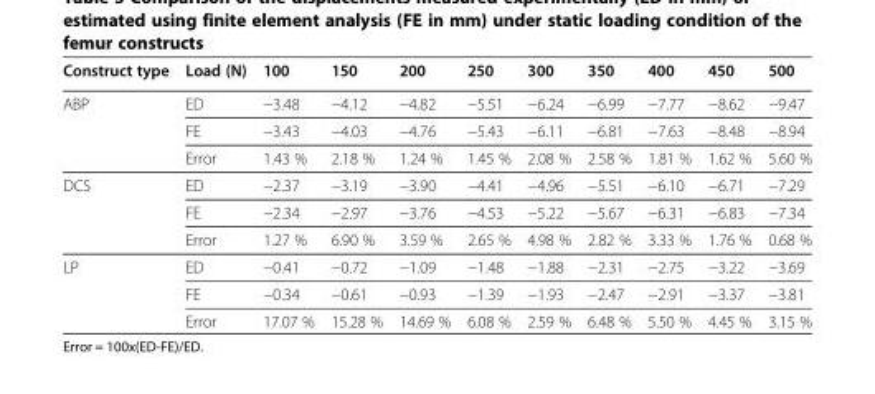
<table><thead><tr><td>Construct type</td><td>Load (N)</td><td>100</td><td>150</td><td>200</td><td>250</td><td>300</td><td>350</td><td>400</td><td>450</td><td>500</td></tr></thead><tbody><tr><td rowspan="3">ABP</td><td>ED</td><td>−3.48</td><td>−4.12</td><td>−4.82</td><td>−5.51</td><td>−6.24</td><td>−6.99</td><td>−7.77</td><td>−8.62</td><td>−9.47</td></tr><tr><td>FE</td><td>−3.43</td><td>−4.03</td><td>−4.76</td><td>−5.43</td><td>−6.11</td><td>−6.81</td><td>−7.63</td><td>−8.48</td><td>−8.94</td></tr><tr><td>Error</td><td>1.43 %</td><td>2.18 %</td><td>1.24 %</td><td>1.45 %</td><td>2.08 %</td><td>2.58 %</td><td>1.81 %</td><td>1.62 %</td><td>5.60 %</td></tr><tr><td rowspan="3">DCS</td><td>ED</td><td>−2.37</td><td>−3.19</td><td>−3.90</td><td>−4.41</td><td>−4.96</td><td>−5.51</td><td>−6.10</td><td>−6.71</td><td>−7.29</td></tr><tr><td>FE</td><td>−2.34</td><td>−2.97</td><td>−3.76</td><td>−4.53</td><td>−5.22</td><td>−5.67</td><td>−6.31</td><td>−6.83</td><td>−7.34</td></tr><tr><td>Error</td><td>1.27 %</td><td>6.90 %</td><td>3.59 %</td><td>2.65 %</td><td>4.98 %</td><td>2.82 %</td><td>3.33 %</td><td>1.76 %</td><td>0.68 %</td></tr><tr><td rowspan="3">LP</td><td>ED</td><td>−0.41</td><td>−0.72</td><td>−1.09</td><td>−1.48</td><td>−1.88</td><td>−2.31</td><td>−2.75</td><td>−3.22</td><td>−3.69</td></tr><tr><td>FE</td><td>−0.34</td><td>−0.61</td><td>−0.93</td><td>−1.39</td><td>−1.93</td><td>−2.47</td><td>−2.91</td><td>−3.37</td><td>−3.81</td></tr><tr><td>Error</td><td>17.07 %</td><td>15.28 %</td><td>14.69 %</td><td>6.08 %</td><td>2.59 %</td><td>6.48 %</td><td>5.50 %</td><td>4.45 %</td><td>3.15 %</td></tr></tbody></table>